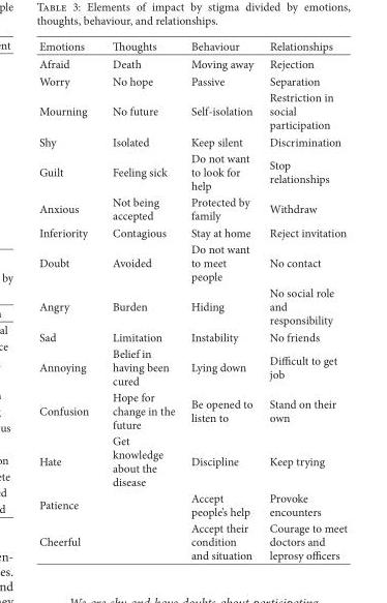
<table><thead><tr><td>Emotions</td><td>Thoughts</td><td>Behaviour</td><td>Relationships</td></tr></thead><tbody><tr><td>Afraid</td><td>Death</td><td>Moving away</td><td>Rejection</td></tr><tr><td>Worry</td><td>No hope</td><td>Passive</td><td>Separation</td></tr><tr><td>Mourning</td><td>No future</td><td>Self-isolation</td><td>Restriction in social participation</td></tr><tr><td>Shy</td><td>Isolated</td><td>Keep silent</td><td>Discrimination</td></tr><tr><td>Guilt</td><td>Feeling sick</td><td>Do not want to look for help</td><td>Stop relationships</td></tr><tr><td>Anxious</td><td>Not being accepted</td><td>Protected by family</td><td>Withdraw</td></tr><tr><td>Inferiority</td><td>Contagious</td><td>Stay at home</td><td>Reject invitation</td></tr><tr><td>Doubt</td><td>Avoided</td><td>Do not want to meet people</td><td>No contact</td></tr><tr><td>Angry</td><td>Burden</td><td>Hiding</td><td>No social role and responsibility</td></tr><tr><td>Sad</td><td>Limitation</td><td>Instability</td><td>No friends</td></tr><tr><td>Annoying</td><td>Belief in having been cured</td><td>Lying down</td><td>Difficult to get job</td></tr><tr><td>Confusion</td><td>Hope for change in the future</td><td>Be opened to listen to</td><td>Stand on their own</td></tr><tr><td>Hate</td><td>Get knowledge about the disease</td><td>Discipline</td><td>Keep trying</td></tr><tr><td>Patience</td><td></td><td>Accept people’s help</td><td>Provoke encounters</td></tr><tr><td>Cheerful</td><td></td><td>Accept their condition and situation</td><td>Courage to meet doctors and leprosy officers</td></tr></tbody></table>